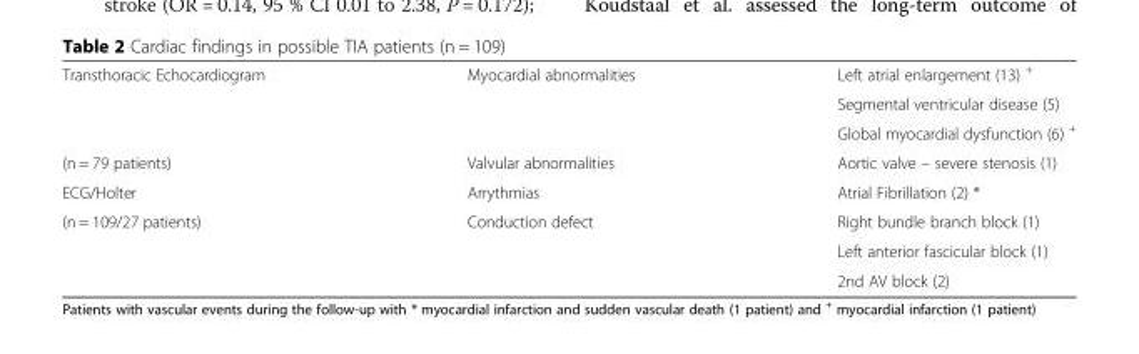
<table><tbody><tr><td rowspan="3">Transthoracic Echocardiogram</td><td rowspan="3">Myocardial abnormalities</td><td>Left atrial enlargement (13) <sup>+</sup></td></tr><tr><td>Segmental ventricular disease (5)</td></tr><tr><td>Global myocardial dysfunction (6) <sup>+</sup></td></tr><tr><td>(n = 79 patients)</td><td>Valvular abnormalities</td><td>Aortic valve – severe stenosis (1)</td></tr><tr><td>ECG/Holter</td><td>Arrythmias</td><td>Atrial Fibrillation (2) *</td></tr><tr><td rowspan="3">(n = 109/27 patients)</td><td rowspan="3">Conduction defect</td><td>Right bundle branch block (1)</td></tr><tr><td>Left anterior fascicular block (1)</td></tr><tr><td>2nd AV block (2)</td></tr></tbody></table>